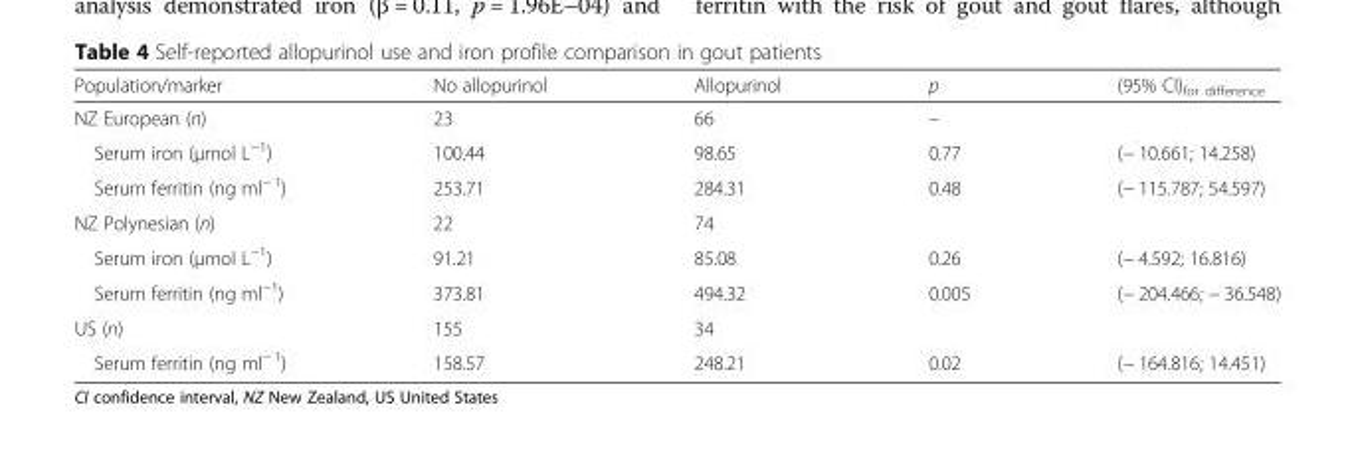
<table><thead><tr><td>Population/marker</td><td>No allopurinol</td><td>Allopurinol</td><td>p</td><td>(95% CI)<sub>for difference</sub></td></tr></thead><tbody><tr><td>NZ European (n)</td><td>23</td><td>66</td><td>–</td><td></td></tr><tr><td>Serum iron (μmol L<sup>−1</sup>)</td><td>100.44</td><td>98.65</td><td>0.77</td><td>(− 10.661; 14.258)</td></tr><tr><td>Serum ferritin (ng ml<sup>− 1</sup>)</td><td>253.71</td><td>284.31</td><td>0.48</td><td>(− 115.787; 54.597)</td></tr><tr><td>NZ Polynesian (n)</td><td>22</td><td>74</td><td></td><td></td></tr><tr><td>Serum iron (μmol L<sup>−1</sup>)</td><td>91.21</td><td>85.08</td><td>0.26</td><td>(− 4.592; 16.816)</td></tr><tr><td>Serum ferritin (ng ml<sup>−1</sup>)</td><td>373.81</td><td>494.32</td><td>0.005</td><td>(− 204.466; − 36.548)</td></tr><tr><td>US (n)</td><td>155</td><td>34</td><td></td><td></td></tr><tr><td>Serum ferritin (ng ml<sup>− 1</sup>)</td><td>158.57</td><td>248.21</td><td>0.02</td><td>(− 164.816; 14.451)</td></tr></tbody></table>